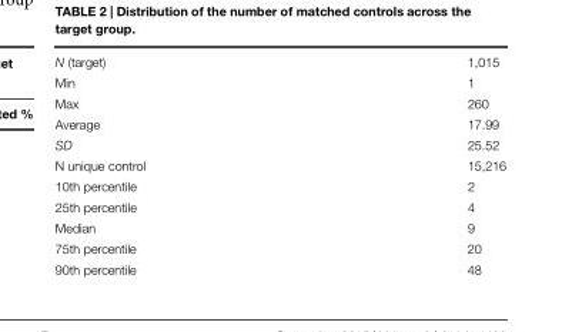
<table><tbody><tr><td>N (target)</td><td>1,015</td></tr><tr><td>Min</td><td>1</td></tr><tr><td>Max</td><td>260</td></tr><tr><td>Average</td><td>17.99</td></tr><tr><td>SD</td><td>25.52</td></tr><tr><td>N unique control</td><td>15,216</td></tr><tr><td>10th percentile</td><td>2</td></tr><tr><td>25th percentile</td><td>4</td></tr><tr><td>Median</td><td>9</td></tr><tr><td>75th percentile</td><td>20</td></tr><tr><td>90th percentile</td><td>48</td></tr></tbody></table>